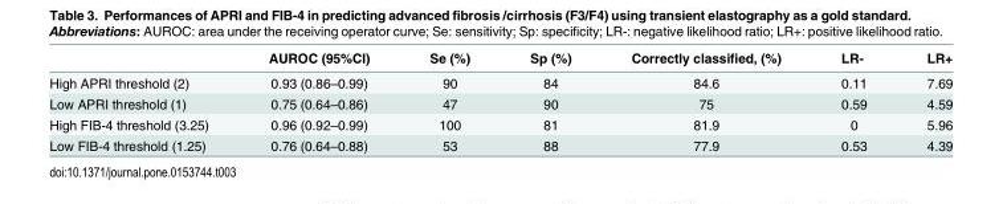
<table><thead><tr><td></td><td>AUROC (95%CI)</td><td>Se (%)</td><td>Sp (%)</td><td>Correctly classified, (%)</td><td>LR-</td><td>LR+</td></tr></thead><tbody><tr><td>High APRI threshold (2)</td><td>0.93 (0.86–0.99)</td><td>90</td><td>84</td><td>84.6</td><td>0.11</td><td>7.69</td></tr><tr><td>Low APRI threshold (1)</td><td>0.75 (0.64–0.86)</td><td>47</td><td>90</td><td>75</td><td>0.59</td><td>4.59</td></tr><tr><td>High FIB-4 threshold (3.25)</td><td>0.96 (0.92–0.99)</td><td>100</td><td>81</td><td>81.9</td><td>0</td><td>5.96</td></tr><tr><td>Low FIB-4 threshold (1.25)</td><td>0.76 (0.64–0.88)</td><td>53</td><td>88</td><td>77.9</td><td>0.53</td><td>4.39</td></tr></tbody></table>